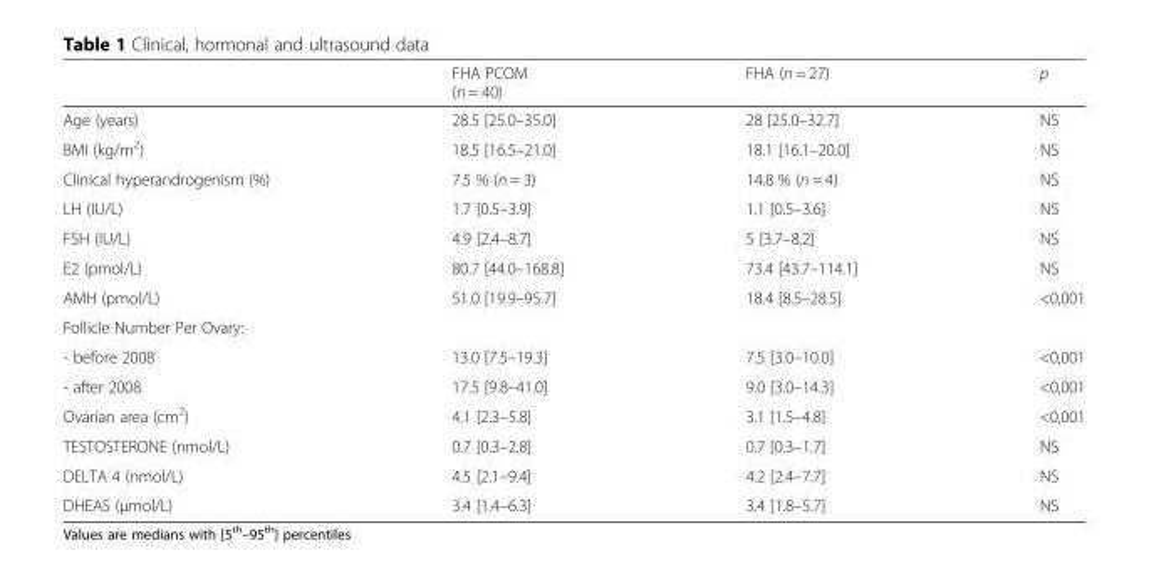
<table><thead><tr><td></td><td>FHA PCOM (n = 40)</td><td>FHA (n = 27)</td><td>p</td></tr></thead><tbody><tr><td>Age (years)</td><td>28.5 [25.0–35.0]</td><td>28 [25.0–32.7]</td><td>NS</td></tr><tr><td>BMI (kg/m<sup>2</sup>)</td><td>18.5 [16.5–21.0]</td><td>18.1 [16.1–20.0]</td><td>NS</td></tr><tr><td>Clinical hyperandrogenism (%)</td><td>7.5 % (n = 3)</td><td>14.8 % (n = 4)</td><td>NS</td></tr><tr><td>LH (IU/L)</td><td>1.7 [0.5–3.9]</td><td>1.1 [0.5–3.6]</td><td>NS</td></tr><tr><td>FSH (IU/L)</td><td>4.9 [2.4–8.7]</td><td>5 [3.7–8.2]</td><td>NS</td></tr><tr><td>E2 (pmol/L)</td><td>80.7 [44.0–168.8]</td><td>73.4 [43.7–114.1]</td><td>NS</td></tr><tr><td>AMH (pmol/L)</td><td>51.0 [19.9–95.7]</td><td>18.4 [8.5–28.5]</td><td>&lt;0,001</td></tr><tr><td colspan="4">Follicle Number Per Ovary:</td></tr><tr><td>- before 2008</td><td>13.0 [7.5–19.3]</td><td>7.5 [3.0–10.0]</td><td>&lt;0,001</td></tr><tr><td>- after 2008</td><td>17.5 [9.8–41.0]</td><td>9.0 [3.0–14.3]</td><td>&lt;0,001</td></tr><tr><td>Ovarian area (cm<sup>2</sup>)</td><td>4.1 [2.3–5.8]</td><td>3.1 [1.5–4.8]</td><td>&lt;0,001</td></tr><tr><td>TESTOSTERONE (nmol/L)</td><td>0.7 [0.3–2.8]</td><td>0.7 [0.3–1.7]</td><td>NS</td></tr><tr><td>DELTA 4 (nmol/L)</td><td>4.5 [2.1–9.4]</td><td>4.2 [2.4–7.7]</td><td>NS</td></tr><tr><td>DHEAS (μmol/L)</td><td>3.4 [1.4–6.3]</td><td>3.4 [1.8–5.7]</td><td>NS</td></tr></tbody></table>